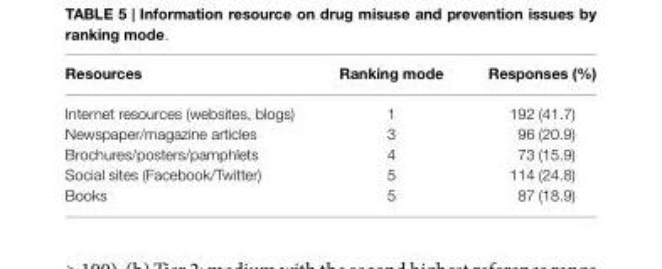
<table><thead><tr><td>Resources</td><td>Ranking mode</td><td>Responses (%)</td></tr></thead><tbody><tr><td>Internet resources (websites, blogs)</td><td>1</td><td>192 (41.7)</td></tr><tr><td>Newspaper/magazine articles</td><td>3</td><td>96 (20.9)</td></tr><tr><td>Brochures/posters/pamphlets</td><td>4</td><td>73 (15.9)</td></tr><tr><td>Social sites (Facebook/Twitter)</td><td>5</td><td>114 (24.8)</td></tr><tr><td>Books</td><td>5</td><td>87 (18.9)</td></tr></tbody></table>